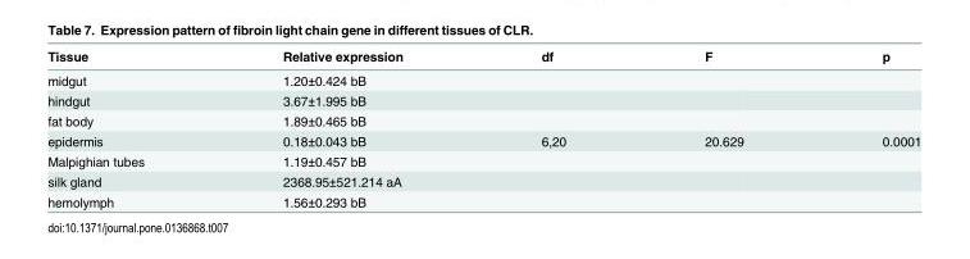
<table><thead><tr><td>Tissue</td><td>Relative expression</td><td>df</td><td>F</td><td>p</td></tr></thead><tbody><tr><td>midgut</td><td>1.20±0.424 bB</td><td></td><td></td><td></td></tr><tr><td>hindgut</td><td>3.67±1.995 bB</td><td></td><td></td><td></td></tr><tr><td>fat body</td><td>1.89±0.465 bB</td><td></td><td></td><td></td></tr><tr><td>epidermis</td><td>0.18±0.043 bB</td><td>6,20</td><td>20.629</td><td>0.0001</td></tr><tr><td>Malpighian tubes</td><td>1.19±0.457 bB</td><td></td><td></td><td></td></tr><tr><td>silk gland</td><td>2368.95±521.214 aA</td><td></td><td></td><td></td></tr><tr><td>hemolymph</td><td>1.56±0.293 bB</td><td></td><td></td><td></td></tr></tbody></table>